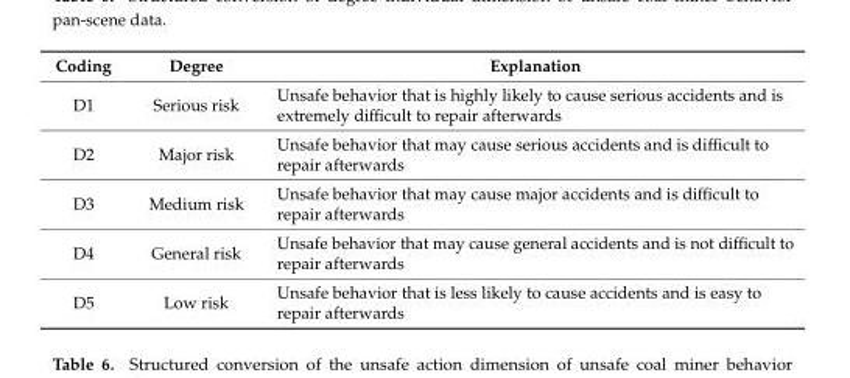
<table><thead><tr><td>Coding</td><td>Degree</td><td>Explanation</td></tr></thead><tbody><tr><td>D1</td><td>Serious risk</td><td>Unsafe behavior that is highly likely to cause serious accidents and is extremely difficult to repair afterwards</td></tr><tr><td>D2</td><td>Major risk</td><td>Unsafe behavior that may cause serious accidents and is difficult to repair afterwards</td></tr><tr><td>D3</td><td>Medium risk</td><td>Unsafe behavior that may cause major accidents and is difficult to repair afterwards</td></tr><tr><td>D4</td><td>General risk</td><td>Unsafe behavior that may cause general accidents and is not difficult to repair afterwards</td></tr><tr><td>D5</td><td>Low risk</td><td>Unsafe behavior that is less likely to cause accidents and is easy to repair afterwards</td></tr></tbody></table>